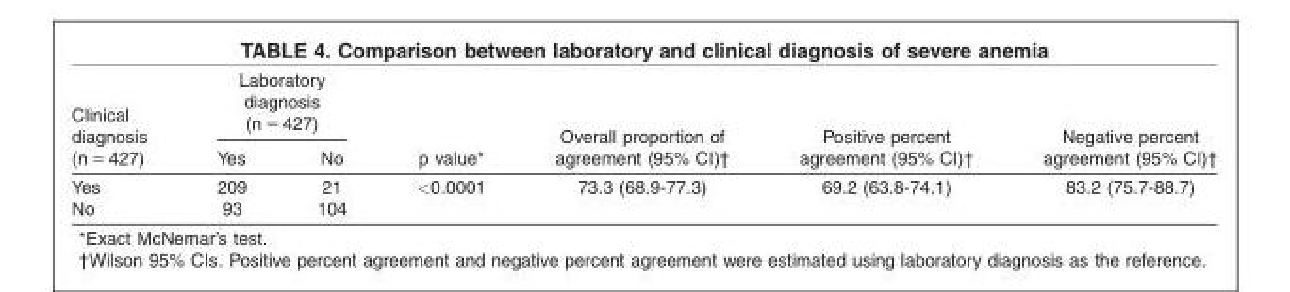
<table><thead><tr><td rowspan="2">Clinical diagnosis (n = 427)</td><td colspan="2">Laboratory diagnosis (n = 427)</td><td rowspan="2">p value*</td><td rowspan="2">Overall proportion of agreement (95% CI)†</td><td rowspan="2">Positive percent agreement (95% CI)†</td><td rowspan="2">Negative percent agreement (95% CI)†</td></tr><tr><td>Yes</td><td>No</td></tr></thead><tbody><tr><td>Yes</td><td>209</td><td>21</td><td>&lt;0.0001</td><td>73.3 (68.9-77.3)</td><td>69.2 (63.8-74.1)</td><td>83.2 (75.7-88.7)</td></tr><tr><td>No</td><td>93</td><td>104</td><td></td><td></td><td></td><td></td></tr></tbody></table>